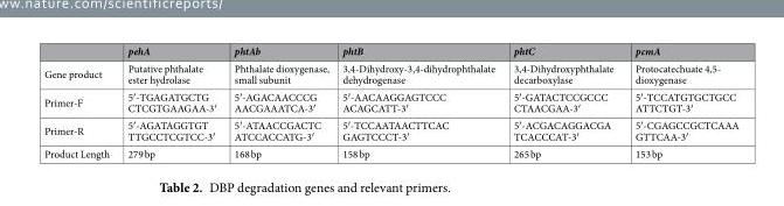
<table><thead><tr><td></td><td>pehA</td><td>phtAb</td><td>phtB</td><td>phtC</td><td>pcmA</td></tr></thead><tbody><tr><td>Gene product</td><td>Putative phthalate ester hydrolase</td><td>Phthalate dioxygenase, small subunit</td><td>3,4-Dihydroxy-3,4-dihydrophthalate dehydrogenase</td><td>3,4-Dihydroxyphthalate decarboxylase</td><td>Protocatechuate 4,5- dioxygenase</td></tr><tr><td>Primer-F</td><td>5′-TGAGATGCTG CTCGTGAAGAA-3′</td><td>5′-AGACAACCCG AACGAAATCA-3′</td><td>5′-AACAAGGAGTCCC ACAGCATT-3′</td><td>5′-GATACTCCGCCC CTAACGAA-3′</td><td>5′-TCCATGTGCTGCC ATTCTGT-3′</td></tr><tr><td>Primer-R</td><td>5′-AGATAGGTGT TTGCCTCGTCC-3′</td><td>5′-ATAACCGACTC ATCCACCATG-3′</td><td>5′-TCCAATAACTTCAC GAGTCCCT-3′</td><td>5′-ACGACAGGACGA TCACCCAT-3′</td><td>5′-CGAGCCGCTCAAA GTTCAA-3′</td></tr><tr><td>Product Length</td><td>279 bp</td><td>168 bp</td><td>158 bp</td><td>265 bp</td><td>153 bp</td></tr></tbody></table>